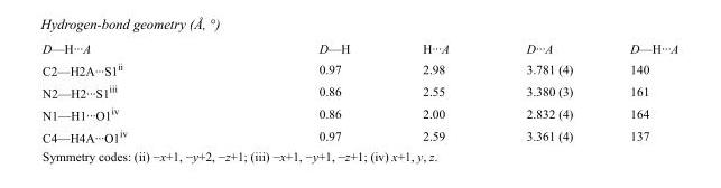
<table><tbody><tr><td>D—H···A</td><td>D—H</td><td>H···A</td><td>D···A</td><td>D—H···A</td></tr><tr><td>C2—H2A···S1<sup>ii</sup></td><td>0.97</td><td>2.98</td><td>3.781 (4)</td><td>140</td></tr><tr><td>N2—H2···S1<sup>iii</sup></td><td>0.86</td><td>2.55</td><td>3.380 (3)</td><td>161</td></tr><tr><td>N1—H1···O1<sup>iv</sup></td><td>0.86</td><td>2.00</td><td>2.832 (4)</td><td>164</td></tr><tr><td>C4—H4A···O1<sup>iv</sup></td><td>0.97</td><td>2.59</td><td>3.361 (4)</td><td>137</td></tr></tbody></table>